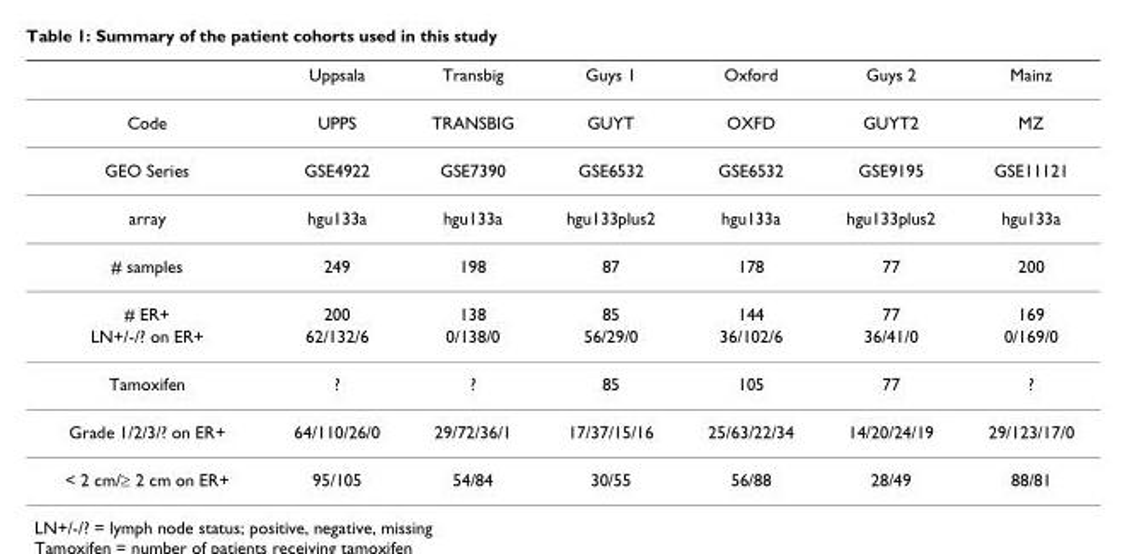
<table><thead><tr><td></td><td>Uppsala</td><td>Transbig</td><td>Guys 1</td><td>Oxford</td><td>Guys 2</td><td>Mainz</td></tr></thead><tbody><tr><td>Code</td><td>UPPS</td><td>TRANSBIG</td><td>GUYT</td><td>OXFD</td><td>GUYT2</td><td>MZ</td></tr><tr><td>GEO Series</td><td>GSE4922</td><td>GSE7390</td><td>GSE6532</td><td>GSE6532</td><td>GSE9195</td><td>GSE11121</td></tr><tr><td>array</td><td>hgu133a</td><td>hgu133a</td><td>hgu133plus2</td><td>hgu133a</td><td>hgu133plus2</td><td>hgu133a</td></tr><tr><td># samples</td><td>249</td><td>198</td><td>87</td><td>178</td><td>77</td><td>200</td></tr><tr><td># ER+</td><td>200</td><td>138</td><td>85</td><td>144</td><td>77</td><td>169</td></tr><tr><td>LN+/-/? on ER+</td><td>62/132/6</td><td>0/138/0</td><td>56/29/0</td><td>36/102/6</td><td>36/41/0</td><td>0/169/0</td></tr><tr><td>Tamoxifen</td><td>?</td><td>?</td><td>85</td><td>105</td><td>77</td><td>?</td></tr><tr><td>Grade 1/2/3/? on ER+</td><td>64/110/26/0</td><td>29/72/36/1</td><td>17/37/15/16</td><td>25/63/22/34</td><td>14/20/24/19</td><td>29/123/17/0</td></tr><tr><td>&lt; 2 cm/≥ 2 cm on ER+</td><td>95/105</td><td>54/84</td><td>30/55</td><td>56/88</td><td>28/49</td><td>88/81</td></tr></tbody></table>